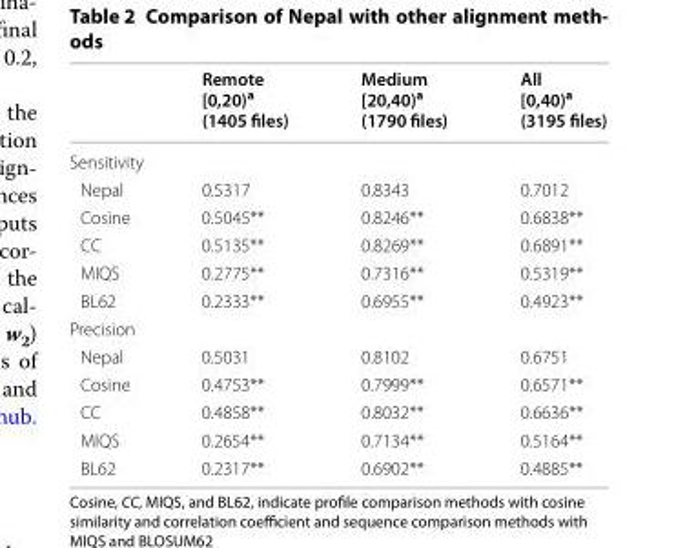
<table><thead><tr><td></td><td>Remote [0,20)<sup>a</sup> (1405 files)</td><td>Medium [20,40)<sup>a</sup> (1790 files)</td><td>All [0,40)<sup>a</sup> (3195 files)</td></tr></thead><tbody><tr><td colspan="4">Sensitivity</td></tr><tr><td>Nepal</td><td>0.5317</td><td>0.8343</td><td>0.7012</td></tr><tr><td>Cosine</td><td>0.5045**</td><td>0.8246**</td><td>0.6838**</td></tr><tr><td>CC</td><td>0.5135**</td><td>0.8269**</td><td>0.6891**</td></tr><tr><td>MIQS</td><td>0.2775**</td><td>0.7316**</td><td>0.5319**</td></tr><tr><td>BL62</td><td>0.2333**</td><td>0.6955**</td><td>0.4923**</td></tr><tr><td colspan="4">Precision</td></tr><tr><td>Nepal</td><td>0.5031</td><td>0.8102</td><td>0.6751</td></tr><tr><td>Cosine</td><td>0.4753**</td><td>0.7999**</td><td>0.6571**</td></tr><tr><td>CC</td><td>0.4858**</td><td>0.8032**</td><td>0.6636**</td></tr><tr><td>MIQS</td><td>0.2654**</td><td>0.7134**</td><td>0.5164**</td></tr><tr><td>BL62</td><td>0.2317**</td><td>0.6902**</td><td>0.4885**</td></tr></tbody></table>